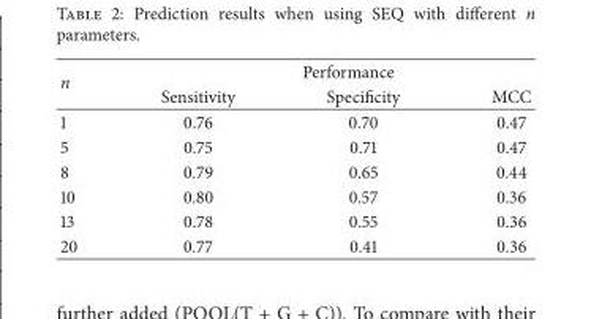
<table><thead><tr><td rowspan="2">n</td><td colspan="3">Performance</td></tr><tr><td>Sensitivity</td><td>Specificity</td><td>MCC</td></tr></thead><tbody><tr><td>1</td><td>0.76</td><td>0.70</td><td>0.47</td></tr><tr><td>5</td><td>0.75</td><td>0.71</td><td>0.47</td></tr><tr><td>8</td><td>0.79</td><td>0.65</td><td>0.44</td></tr><tr><td>10</td><td>0.80</td><td>0.57</td><td>0.36</td></tr><tr><td>13</td><td>0.78</td><td>0.55</td><td>0.36</td></tr><tr><td>20</td><td>0.77</td><td>0.41</td><td>0.36</td></tr></tbody></table>